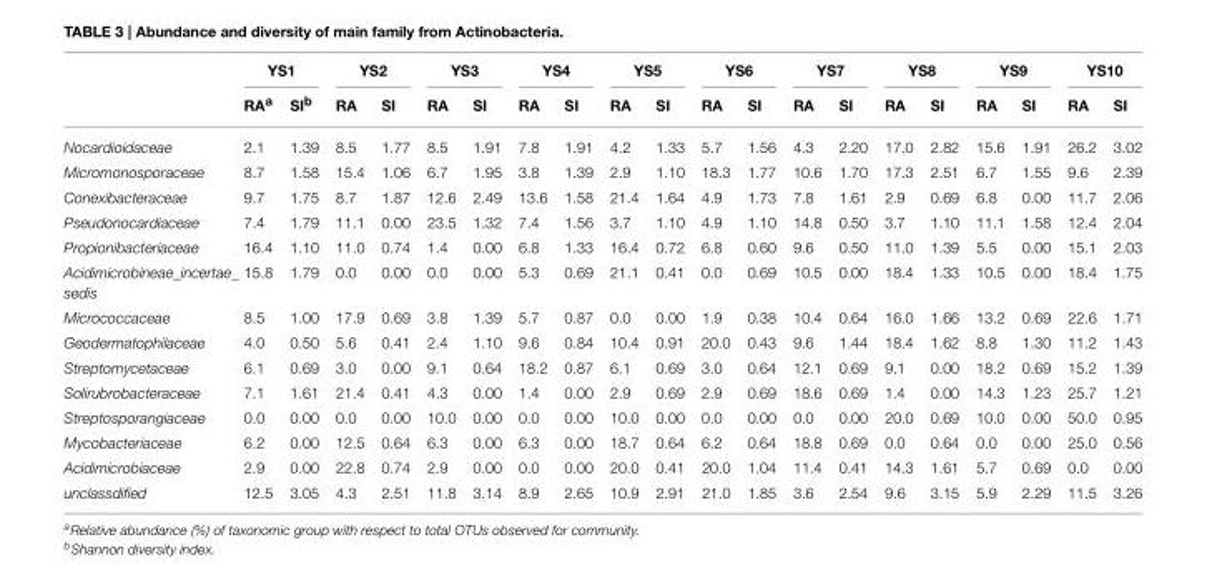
<table><thead><tr><td rowspan="2"></td><td colspan="2">YS1</td><td colspan="2">YS2</td><td colspan="2">YS3</td><td colspan="2">YS4</td><td colspan="2">YS5</td><td colspan="2">YS6</td><td colspan="2">YS7</td><td colspan="2">YS8</td><td colspan="2">YS9</td><td colspan="2">YS10</td></tr><tr><td>RA<sup>a</sup></td><td>SI<sup>b</sup></td><td>RA</td><td>SI</td><td>RA</td><td>SI</td><td>RA</td><td>SI</td><td>RA</td><td>SI</td><td>RA</td><td>SI</td><td>RA</td><td>SI</td><td>RA</td><td>SI</td><td>RA</td><td>SI</td><td>RA</td><td>SI</td></tr></thead><tbody><tr><td>Nocardioidaceae</td><td>2.1</td><td>1.39</td><td>8.5</td><td>1.77</td><td>8.5</td><td>1.91</td><td>7.8</td><td>1.91</td><td>4.2</td><td>1.33</td><td>5.7</td><td>1.56</td><td>4.3</td><td>2.20</td><td>17.0</td><td>2.82</td><td>15.6</td><td>1.91</td><td>26.2</td><td>3.02</td></tr><tr><td>Micromonosporaceae</td><td>8.7</td><td>1.58</td><td>15.4</td><td>1.06</td><td>6.7</td><td>1.95</td><td>3.8</td><td>1.39</td><td>2.9</td><td>1.10</td><td>18.3</td><td>1.77</td><td>10.6</td><td>1.70</td><td>17.3</td><td>2.51</td><td>6.7</td><td>1.55</td><td>9.6</td><td>2.39</td></tr><tr><td>Conexibacteraceae</td><td>9.7</td><td>1.75</td><td>8.7</td><td>1.87</td><td>12.6</td><td>2.49</td><td>13.6</td><td>1.58</td><td>21.4</td><td>1.64</td><td>4.9</td><td>1.73</td><td>7.8</td><td>1.61</td><td>2.9</td><td>0.69</td><td>6.8</td><td>0.00</td><td>11.7</td><td>2.06</td></tr><tr><td>Pseudonocardiaceae</td><td>7.4</td><td>1.79</td><td>11.1</td><td>0.00</td><td>23.5</td><td>1.32</td><td>7.4</td><td>1.56</td><td>3.7</td><td>1.10</td><td>4.9</td><td>1.10</td><td>14.8</td><td>0.50</td><td>3.7</td><td>1.10</td><td>11.1</td><td>1.58</td><td>12.4</td><td>2.04</td></tr><tr><td>Propionibacteriaceae</td><td>16.4</td><td>1.10</td><td>11.0</td><td>0.74</td><td>1.4</td><td>0.00</td><td>6.8</td><td>1.33</td><td>16.4</td><td>0.72</td><td>6.8</td><td>0.60</td><td>9.6</td><td>0.50</td><td>11.0</td><td>1.39</td><td>5.5</td><td>0.00</td><td>15.1</td><td>2.03</td></tr><tr><td>Acidimicrobineae_incertae_ sedis</td><td>15.8</td><td>1.79</td><td>0.0</td><td>0.00</td><td>0.0</td><td>0.00</td><td>5.3</td><td>0.69</td><td>21.1</td><td>0.41</td><td>0.0</td><td>0.69</td><td>10.5</td><td>0.00</td><td>18.4</td><td>1.33</td><td>10.5</td><td>0.00</td><td>18.4</td><td>1.75</td></tr><tr><td>Micrococcaceae</td><td>8.5</td><td>1.00</td><td>17.9</td><td>0.69</td><td>3.8</td><td>1.39</td><td>5.7</td><td>0.87</td><td>0.0</td><td>0.00</td><td>1.9</td><td>0.38</td><td>10.4</td><td>0.64</td><td>16.0</td><td>1.66</td><td>13.2</td><td>0.69</td><td>22.6</td><td>1.71</td></tr><tr><td>Geodermatophilaceae</td><td>4.0</td><td>0.50</td><td>5.6</td><td>0.41</td><td>2.4</td><td>1.10</td><td>9.6</td><td>0.84</td><td>10.4</td><td>0.91</td><td>20.0</td><td>0.43</td><td>9.6</td><td>1.44</td><td>18.4</td><td>1.62</td><td>8.8</td><td>1.30</td><td>11.2</td><td>1.43</td></tr><tr><td>Streptomycetaceae</td><td>6.1</td><td>0.69</td><td>3.0</td><td>0.00</td><td>9.1</td><td>0.64</td><td>18.2</td><td>0.87</td><td>6.1</td><td>0.69</td><td>3.0</td><td>0.64</td><td>12.1</td><td>0.69</td><td>9.1</td><td>0.00</td><td>18.2</td><td>0.69</td><td>15.2</td><td>1.39</td></tr><tr><td>Solirubrobacteraceae</td><td>7.1</td><td>1.61</td><td>21.4</td><td>0.41</td><td>4.3</td><td>0.00</td><td>1.4</td><td>0.00</td><td>2.9</td><td>0.69</td><td>2.9</td><td>0.69</td><td>18.6</td><td>0.69</td><td>1.4</td><td>0.00</td><td>14.3</td><td>1.23</td><td>25.7</td><td>1.21</td></tr><tr><td>Streptosporangiaceae</td><td>0.0</td><td>0.00</td><td>0.0</td><td>0.00</td><td>10.0</td><td>0.00</td><td>0.0</td><td>0.00</td><td>10.0</td><td>0.00</td><td>0.0</td><td>0.00</td><td>0.0</td><td>0.00</td><td>20.0</td><td>0.69</td><td>10.0</td><td>0.00</td><td>50.0</td><td>0.95</td></tr><tr><td>Mycobacteriaceae</td><td>6.2</td><td>0.00</td><td>12.5</td><td>0.64</td><td>6.3</td><td>0.00</td><td>6.3</td><td>0.00</td><td>18.7</td><td>0.64</td><td>6.2</td><td>0.64</td><td>18.8</td><td>0.69</td><td>0.0</td><td>0.64</td><td>0.0</td><td>0.00</td><td>25.0</td><td>0.56</td></tr><tr><td>Acidimicrobiaceae</td><td>2.9</td><td>0.00</td><td>22.8</td><td>0.74</td><td>2.9</td><td>0.00</td><td>0.0</td><td>0.00</td><td>20.0</td><td>0.41</td><td>20.0</td><td>1.04</td><td>11.4</td><td>0.41</td><td>14.3</td><td>1.61</td><td>5.7</td><td>0.69</td><td>0.0</td><td>0.00</td></tr><tr><td>unclassdified</td><td>12.5</td><td>3.05</td><td>4.3</td><td>2.51</td><td>11.8</td><td>3.14</td><td>8.9</td><td>2.65</td><td>10.9</td><td>2.91</td><td>21.0</td><td>1.85</td><td>3.6</td><td>2.54</td><td>9.6</td><td>3.15</td><td>5.9</td><td>2.29</td><td>11.5</td><td>3.26</td></tr></tbody></table>